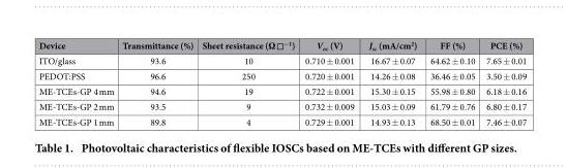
<table><thead><tr><td>Device</td><td>Transmittance (%)</td><td>Sheet resistance (Ω ◻<sup>−1</sup>)</td><td>V<sub>oc</sub> (V)</td><td>J<sub>sc</sub> (mA/cm<sup>2</sup>)</td><td>FF (%)</td><td>PCE (%)</td></tr></thead><tbody><tr><td>ITO/glass</td><td>93.6</td><td>10</td><td>0.710 ± 0.001</td><td>16.67 ± 0.07</td><td>64.62 ± 0.10</td><td>7.65 ± 0.01</td></tr><tr><td>PEDOT:PSS</td><td>96.6</td><td>250</td><td>0.720 ± 0.001</td><td>14.26 ± 0.08</td><td>36.46 ± 0.05</td><td>3.50 ± 0.09</td></tr><tr><td>ME-TCEs-GP 4 mm</td><td>94.6</td><td>19</td><td>0.722 ± 0.001</td><td>15.30 ± 0.15</td><td>55.98 ± 0.80</td><td>6.18 ± 0.16</td></tr><tr><td>ME-TCEs-GP 2 mm</td><td>93.5</td><td>9</td><td>0.732 ± 0.009</td><td>15.03 ± 0.09</td><td>61.79 ± 0.76</td><td>6.80 ± 0.17</td></tr><tr><td>ME-TCEs-GP 1 mm</td><td>89.8</td><td>4</td><td>0.729 ± 0.001</td><td>14.93 ± 0.13</td><td>68.50 ± 0.01</td><td>7.46 ± 0.07</td></tr></tbody></table>